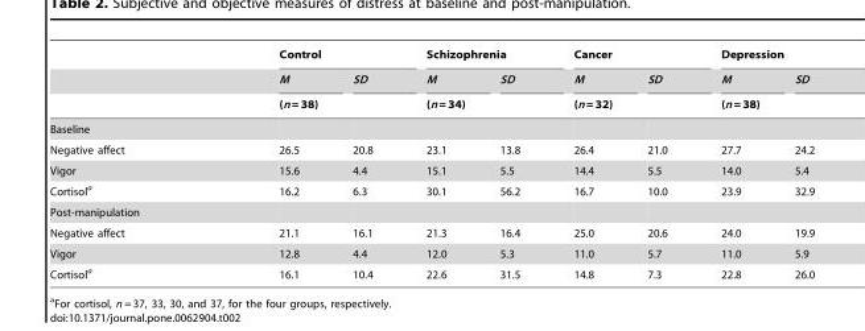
<table><thead><tr><td rowspan="3"></td><td colspan="2">Control</td><td colspan="2">Schizophrenia</td><td colspan="2">Cancer</td><td colspan="2">Depression</td></tr><tr><td>M</td><td>SD</td><td>M</td><td>SD</td><td>M</td><td>SD</td><td>M</td><td>SD</td></tr><tr><td colspan="2">(n = 38)</td><td colspan="2">(n = 34)</td><td colspan="2">(n = 32)</td><td colspan="2">(n = 38)</td></tr></thead><tbody><tr><td colspan="9">Baseline</td></tr><tr><td>Negative affect</td><td>26.5</td><td>20.8</td><td>23.1</td><td>13.8</td><td>26.4</td><td>21.0</td><td>27.7</td><td>24.2</td></tr><tr><td>Vigor</td><td>15.6</td><td>4.4</td><td>15.1</td><td>5.5</td><td>14.4</td><td>5.5</td><td>14.0</td><td>5.4</td></tr><tr><td>Cortisol<sup>a</sup></td><td>16.2</td><td>6.3</td><td>30.1</td><td>56.2</td><td>16.7</td><td>10.0</td><td>23.9</td><td>32.9</td></tr><tr><td colspan="9">Post-manipulation</td></tr><tr><td>Negative affect</td><td>21.1</td><td>16.1</td><td>21.3</td><td>16.4</td><td>25.0</td><td>20.6</td><td>24.0</td><td>19.9</td></tr><tr><td>Vigor</td><td>12.8</td><td>4.4</td><td>12.0</td><td>5.3</td><td>11.0</td><td>5.7</td><td>11.0</td><td>5.9</td></tr><tr><td>Cortisol<sup>a</sup></td><td>16.1</td><td>10.4</td><td>22.6</td><td>31.5</td><td>14.8</td><td>7.3</td><td>22.8</td><td>26.0</td></tr></tbody></table>